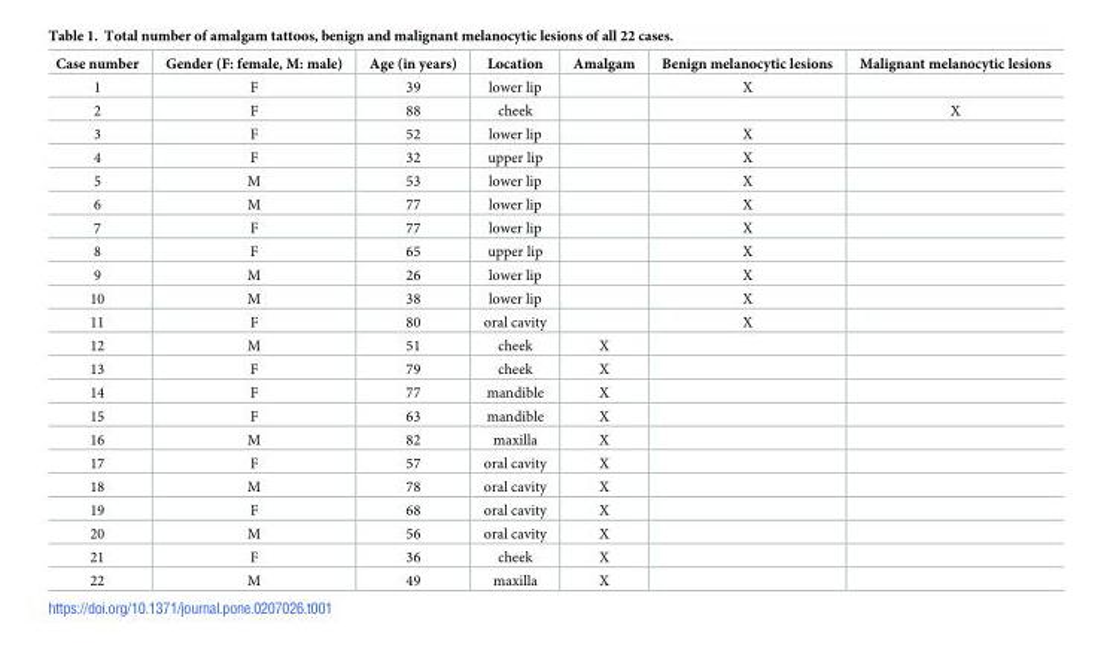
<table><thead><tr><td>Case number</td><td>Gender (F: female, M: male)</td><td>Age (in years)</td><td>Location</td><td>Amalgam</td><td>Benign melanocytic lesions</td><td>Malignant melanocytic lesions</td></tr></thead><tbody><tr><td>1</td><td>F</td><td>39</td><td>lower lip</td><td></td><td>X</td><td></td></tr><tr><td>2</td><td>F</td><td>88</td><td>cheek</td><td></td><td></td><td>X</td></tr><tr><td>3</td><td>F</td><td>52</td><td>lower lip</td><td></td><td>X</td><td></td></tr><tr><td>4</td><td>F</td><td>32</td><td>upper lip</td><td></td><td>X</td><td></td></tr><tr><td>5</td><td>M</td><td>53</td><td>lower lip</td><td></td><td>X</td><td></td></tr><tr><td>6</td><td>M</td><td>77</td><td>lower lip</td><td></td><td>X</td><td></td></tr><tr><td>7</td><td>F</td><td>77</td><td>lower lip</td><td></td><td>X</td><td></td></tr><tr><td>8</td><td>F</td><td>65</td><td>upper lip</td><td></td><td>X</td><td></td></tr><tr><td>9</td><td>M</td><td>26</td><td>lower lip</td><td></td><td>X</td><td></td></tr><tr><td>10</td><td>M</td><td>38</td><td>lower lip</td><td></td><td>X</td><td></td></tr><tr><td>11</td><td>F</td><td>80</td><td>oral cavity</td><td></td><td>X</td><td></td></tr><tr><td>12</td><td>M</td><td>51</td><td>cheek</td><td>X</td><td></td><td></td></tr><tr><td>13</td><td>F</td><td>79</td><td>cheek</td><td>X</td><td></td><td></td></tr><tr><td>14</td><td>F</td><td>77</td><td>mandible</td><td>X</td><td></td><td></td></tr><tr><td>15</td><td>F</td><td>63</td><td>mandible</td><td>X</td><td></td><td></td></tr><tr><td>16</td><td>M</td><td>82</td><td>maxilla</td><td>X</td><td></td><td></td></tr><tr><td>17</td><td>F</td><td>57</td><td>oral cavity</td><td>X</td><td></td><td></td></tr><tr><td>18</td><td>M</td><td>78</td><td>oral cavity</td><td>X</td><td></td><td></td></tr><tr><td>19</td><td>F</td><td>68</td><td>oral cavity</td><td>X</td><td></td><td></td></tr><tr><td>20</td><td>M</td><td>56</td><td>oral cavity</td><td>X</td><td></td><td></td></tr><tr><td>21</td><td>F</td><td>36</td><td>cheek</td><td>X</td><td></td><td></td></tr><tr><td>22</td><td>M</td><td>49</td><td>maxilla</td><td>X</td><td></td><td></td></tr></tbody></table>